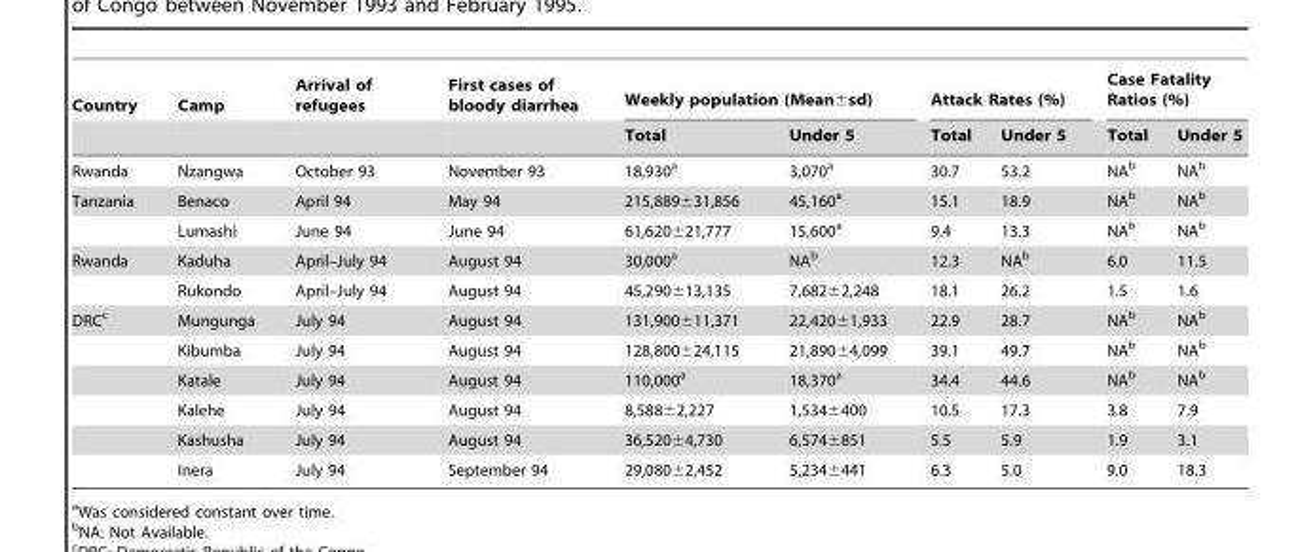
<table><thead><tr><td rowspan="2">Country</td><td rowspan="2">Camp</td><td rowspan="2">Arrival of refugees</td><td rowspan="2">First cases of bloody diarrhea</td><td colspan="2">Weekly population (Mean±sd)</td><td colspan="2">Attack Rates (%)</td><td colspan="2">Case Fatality Ratios (%)</td></tr><tr><td>Total</td><td>Under 5</td><td>Total</td><td>Under 5</td><td>Total</td><td>Under 5</td></tr></thead><tbody><tr><td>Rwanda</td><td>Nzangwa</td><td>October 93</td><td>November 93</td><td>18,930<sup>a</sup></td><td>3,070<sup>a</sup></td><td>30.7</td><td>53.2</td><td>NA<sup>b</sup></td><td>NA<sup>b</sup></td></tr><tr><td rowspan="2">Tanzania</td><td>Benaco</td><td>April 94</td><td>May 94</td><td>215,889±31,856</td><td>45,160<sup>a</sup></td><td>15.1</td><td>18.9</td><td>NA<sup>b</sup></td><td>NA<sup>b</sup></td></tr><tr><td>Lumashi</td><td>June 94</td><td>June 94</td><td>61,620±21,777</td><td>15,600<sup>a</sup></td><td>9.4</td><td>13.3</td><td>NA<sup>b</sup></td><td>NA<sup>b</sup></td></tr><tr><td rowspan="2">Rwanda</td><td>Kaduha</td><td>April–July 94</td><td>August 94</td><td>30,000<sup>a</sup></td><td>NA<sup>b</sup></td><td>12.3</td><td>NA<sup>b</sup></td><td>6.0</td><td>11.5</td></tr><tr><td>Rukondo</td><td>April–July 94</td><td>August 94</td><td>45,290±13,135</td><td>7,682±2,248</td><td>18.1</td><td>26.2</td><td>1.5</td><td>1.6</td></tr><tr><td rowspan="6">DRC<sup>c</sup></td><td>Mungunga</td><td>July 94</td><td>August 94</td><td>131,900±11,371</td><td>22,420±1,933</td><td>22.9</td><td>28.7</td><td>NA<sup>b</sup></td><td>NA<sup>b</sup></td></tr><tr><td>Kibumba</td><td>July 94</td><td>August 94</td><td>128,800±24,115</td><td>21,890±4,099</td><td>39.1</td><td>49.7</td><td>NA<sup>b</sup></td><td>NA<sup>b</sup></td></tr><tr><td>Katale</td><td>July 94</td><td>August 94</td><td>110,000<sup>a</sup></td><td>18,370<sup>a</sup></td><td>34.4</td><td>44.6</td><td>NA<sup>b</sup></td><td>NA<sup>b</sup></td></tr><tr><td>Kalehe</td><td>July 94</td><td>August 94</td><td>8,588±2,227</td><td>1,534±400</td><td>10.5</td><td>17.3</td><td>3.8</td><td>7.9</td></tr><tr><td>Kashusha</td><td>July 94</td><td>August 94</td><td>36,520±4,730</td><td>6,574±851</td><td>5.5</td><td>5.9</td><td>1.9</td><td>3.1</td></tr><tr><td>Inera</td><td>July 94</td><td>September 94</td><td>29,080±2,452</td><td>5,234±441</td><td>6.3</td><td>5.0</td><td>9.0</td><td>18.3</td></tr></tbody></table>